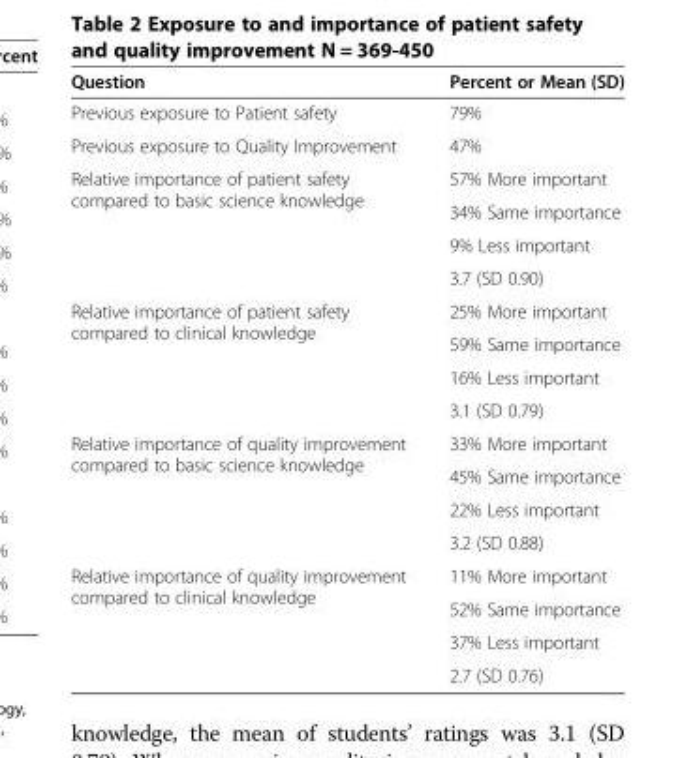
<table><thead><tr><td>Question</td><td>Percent or Mean (SD)</td></tr></thead><tbody><tr><td>Previous exposure to Patient safety</td><td>79%</td></tr><tr><td>Previous exposure to Quality Improvement</td><td>47%</td></tr><tr><td rowspan="4">Relative importance of patient safety compared to basic science knowledge</td><td>57% More important</td></tr><tr><td>34% Same importance</td></tr><tr><td>9% Less important</td></tr><tr><td>3.7 (SD 0.90)</td></tr><tr><td rowspan="4">Relative importance of patient safety compared to clinical knowledge</td><td>25% More important</td></tr><tr><td>59% Same importance</td></tr><tr><td>16% Less important</td></tr><tr><td>3.1 (SD 0.79)</td></tr><tr><td rowspan="4">Relative importance of quality improvement compared to basic science knowledge</td><td>33% More important</td></tr><tr><td>45% Same importance</td></tr><tr><td>22% Less important</td></tr><tr><td>3.2 (SD 0.88)</td></tr><tr><td rowspan="4">Relative importance of quality improvement compared to clinical knowledge</td><td>11% More important</td></tr><tr><td>52% Same importance</td></tr><tr><td>37% Less important</td></tr><tr><td>2.7 (SD 0.76)</td></tr></tbody></table>